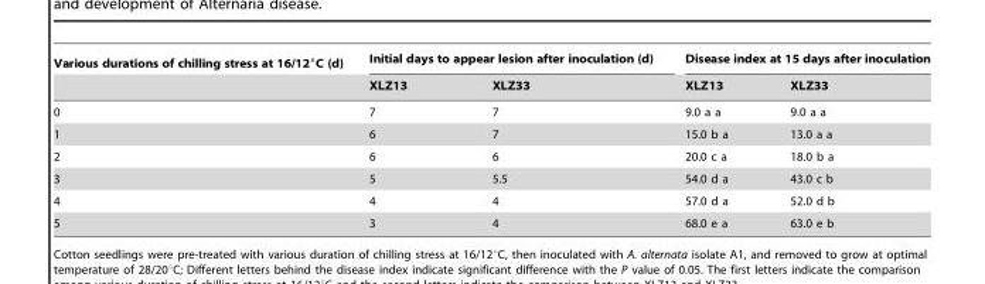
<table><thead><tr><td rowspan="2">Various durations of chilling stress at 16/12°C (d)</td><td colspan="2">Initial days to appear lesion after inoculation (d)</td><td colspan="2">Disease index at 15 days after inoculation</td></tr><tr><td>XLZ13</td><td>XLZ33</td><td>XLZ13</td><td>XLZ33</td></tr></thead><tbody><tr><td>0</td><td>7</td><td>7</td><td>9.0 a a</td><td>9.0 a a</td></tr><tr><td>1</td><td>6</td><td>7</td><td>15.0 b a</td><td>13.0 a a</td></tr><tr><td>2</td><td>6</td><td>6</td><td>20.0 c a</td><td>18.0 b a</td></tr><tr><td>3</td><td>5</td><td>5.5</td><td>54.0 d a</td><td>43.0 c b</td></tr><tr><td>4</td><td>4</td><td>4</td><td>57.0 d a</td><td>52.0 d b</td></tr><tr><td>5</td><td>3</td><td>4</td><td>68.0 e a</td><td>63.0 e b</td></tr></tbody></table>